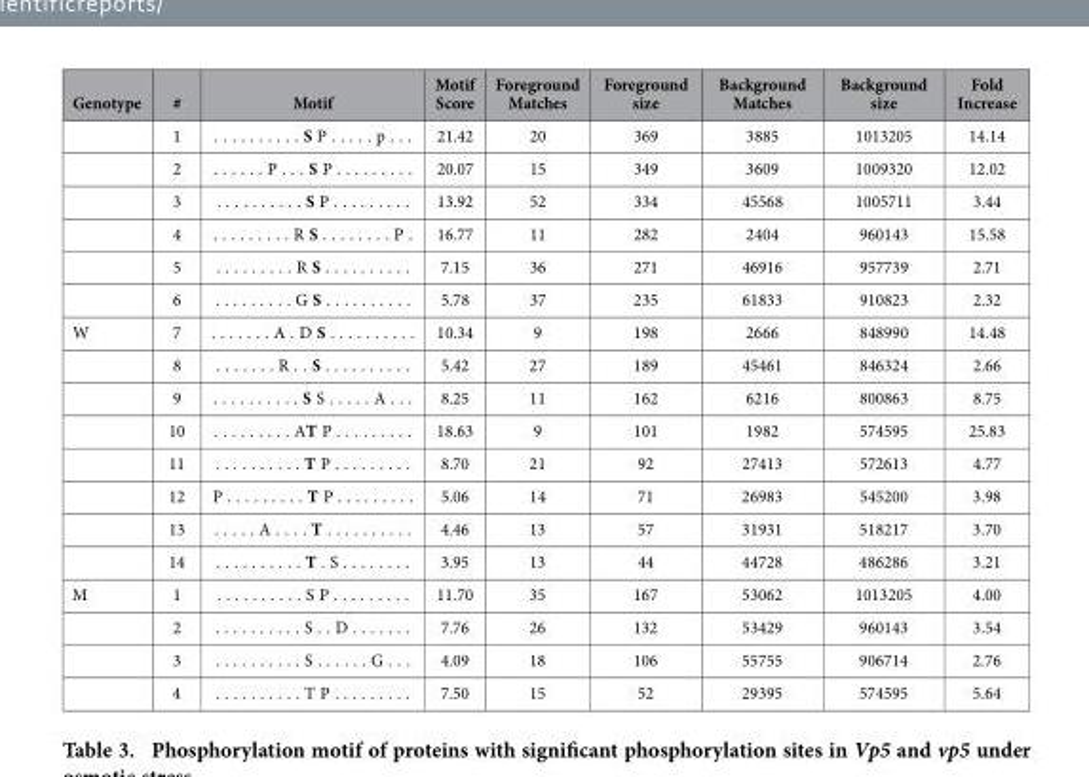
<table><thead><tr><td>Genotype</td><td>#</td><td>Motif</td><td>Motif Score</td><td>Foreground Matches</td><td>Foreground size</td><td>Background Matches</td><td>Background size</td><td>Fold Increase</td></tr></thead><tbody><tr><td></td><td>1</td><td>. . . . . . . . . . S P . . . . . p . . .</td><td>21.42</td><td>20</td><td>369</td><td>3885</td><td>1013205</td><td>14.14</td></tr><tr><td></td><td>2</td><td>. . . . . . P . . . S P . . . . . . . . .</td><td>20.07</td><td>15</td><td>349</td><td>3609</td><td>1009320</td><td>12.02</td></tr><tr><td></td><td>3</td><td>. . . . . . . . . . S P . . . . . . . . .</td><td>13.92</td><td>52</td><td>334</td><td>45568</td><td>1005711</td><td>3.44</td></tr><tr><td></td><td>4</td><td>. . . . . . . . . R S . . . . . . . . P .</td><td>16.77</td><td>11</td><td>282</td><td>2404</td><td>960143</td><td>15.58</td></tr><tr><td></td><td>5</td><td>. . . . . . . . . R S . . . . . . . . . .</td><td>7.15</td><td>36</td><td>271</td><td>46916</td><td>957739</td><td>2.71</td></tr><tr><td></td><td>6</td><td>. . . . . . . . . G S . . . . . . . . . .</td><td>5.78</td><td>37</td><td>235</td><td>61833</td><td>910823</td><td>2.32</td></tr><tr><td rowspan="8">W</td><td>7</td><td>. . . . . . . A . D S . . . . . . . . . .</td><td>10.34</td><td>9</td><td>198</td><td>2666</td><td>848990</td><td>14.48</td></tr><tr><td>8</td><td>. . . . . . . R . . S . . . . . . . . . .</td><td>5.42</td><td>27</td><td>189</td><td>45461</td><td>846324</td><td>2.66</td></tr><tr><td>9</td><td>. . . . . . . . . . S S . . . . . A . . .</td><td>8.25</td><td>11</td><td>162</td><td>6216</td><td>800863</td><td>8.75</td></tr><tr><td>10</td><td>. . . . . . . . . AT P . . . . . . . . .</td><td>18.63</td><td>9</td><td>101</td><td>1982</td><td>574595</td><td>25.83</td></tr><tr><td>11</td><td>. . . . . . . . . . T P . . . . . . . . .</td><td>8.70</td><td>21</td><td>92</td><td>27413</td><td>572613</td><td>4.77</td></tr><tr><td>12</td><td>P . . . . . . . . . T P . . . . . . . . .</td><td>5.06</td><td>14</td><td>71</td><td>26983</td><td>545200</td><td>3.98</td></tr><tr><td>13</td><td>. . . . . A . . . . T . . . . . . . . . .</td><td>4.46</td><td>13</td><td>57</td><td>31931</td><td>518217</td><td>3.70</td></tr><tr><td>14</td><td>. . . . . . . . . . T . S . . . . . . . .</td><td>3.95</td><td>13</td><td>44</td><td>44728</td><td>486286</td><td>3.21</td></tr><tr><td rowspan="4">M</td><td>1</td><td>. . . . . . . . . . S P . . . . . . . . .</td><td>11.70</td><td>35</td><td>167</td><td>53062</td><td>1013205</td><td>4.00</td></tr><tr><td>2</td><td>. . . . . . . . . . S . . D . . . . . . .</td><td>7.76</td><td>26</td><td>132</td><td>53429</td><td>960143</td><td>3.54</td></tr><tr><td>3</td><td>. . . . . . . . . . S . . . . . . G . . .</td><td>4.09</td><td>18</td><td>106</td><td>55755</td><td>906714</td><td>2.76</td></tr><tr><td>4</td><td>. . . . . . . . . . T P . . . . . . . . .</td><td>7.50</td><td>15</td><td>52</td><td>29395</td><td>574595</td><td>5.64</td></tr></tbody></table>